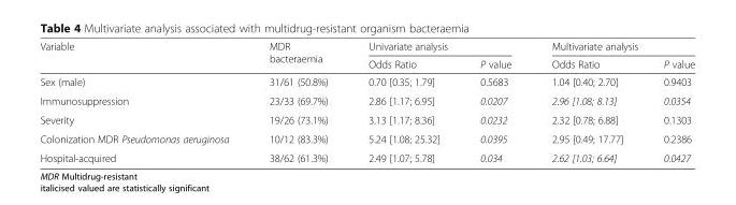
<table><thead><tr><td rowspan="2">Variable</td><td rowspan="2">MDR bacteraemia</td><td colspan="2">Univariate analysis</td><td colspan="2">Multivariate analysis</td></tr><tr><td>Odds Ratio</td><td>P value</td><td>Odds Ratio</td><td>P value</td></tr></thead><tbody><tr><td>Sex (male)</td><td>31/61 (50.8%)</td><td>0.70 [0.35; 1.79]</td><td>0.5683</td><td>1.04 [0.40; 2.70]</td><td>0.9403</td></tr><tr><td>Immunosuppression</td><td>23/33 (69.7%)</td><td>2.86 [1.17; 6.95]</td><td>0.0207</td><td>2.96 [1.08; 8.13]</td><td>0.0354</td></tr><tr><td>Severity</td><td>19/26 (73.1%)</td><td>3.13 [1.17; 8.36]</td><td>0.0232</td><td>2.32 [0.78; 6.88]</td><td>0.1303</td></tr><tr><td>Colonization MDR Pseudomonas aeruginosa</td><td>10/12 (83.3%)</td><td>5.24 [1.08; 25.32]</td><td>0.0395</td><td>2.95 [0.49; 17.77]</td><td>0.2386</td></tr><tr><td>Hospital-acquired</td><td>38/62 (61.3%)</td><td>2.49 [1.07; 5.78]</td><td>0.034</td><td>2.62 [1.03; 6.64]</td><td>0.0427</td></tr></tbody></table>